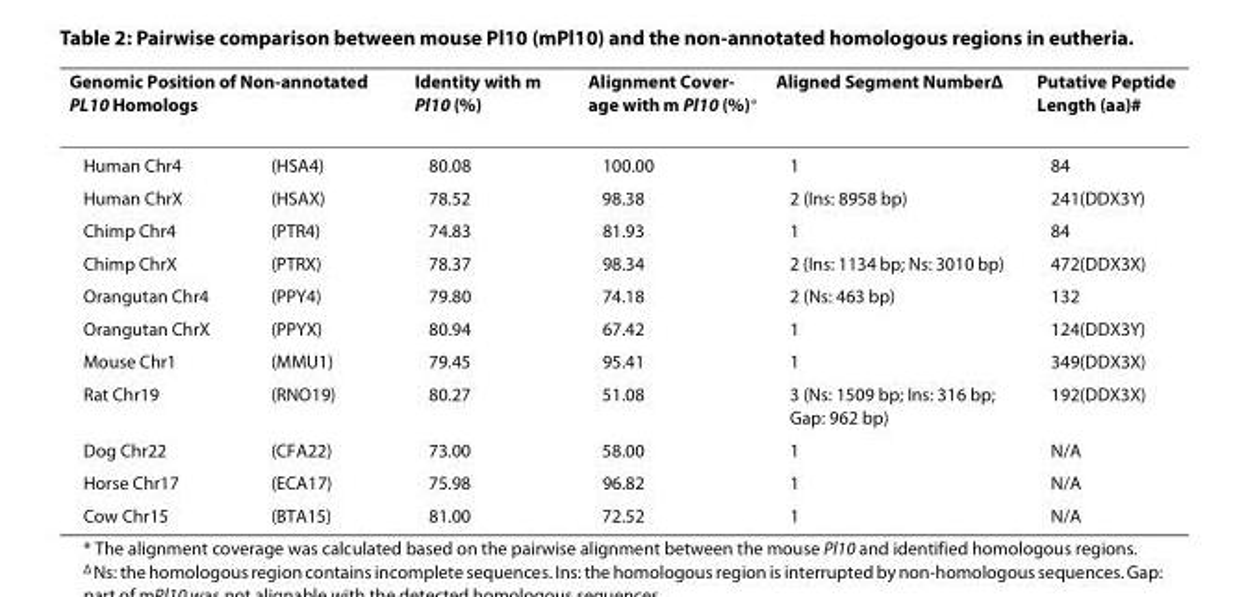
<table><thead><tr><td colspan="2">Genomic Position of Non-annotated PL10 Homologs</td><td rowspan="2">Identity with m Pl10 (%) 80.08</td><td rowspan="2">Alignment Cover- age with m Pl10 (%)* 100.00</td><td rowspan="2">Aligned Segment Number<sup>Δ</sup> 1</td><td rowspan="2">Putative Peptide Length (aa)<sup>#</sup> 84</td></tr><tr><td>Human Chr4</td><td>(HSA4)</td></tr></thead><tbody><tr><td>Human ChrX</td><td>(HSAX)</td><td>78.52</td><td>98.38</td><td>2 (Ins: 8958 bp)</td><td>241(DDX3Y)</td></tr><tr><td>Chimp Chr4</td><td>(PTR4)</td><td>74.83</td><td>81.93</td><td>1</td><td>84</td></tr><tr><td>Chimp ChrX</td><td>(PTRX)</td><td>78.37</td><td>98.34</td><td>2 (Ins: 1134 bp; Ns: 3010 bp)</td><td>472(DDX3X)</td></tr><tr><td>Orangutan Chr4</td><td>(PPY4)</td><td>79.80</td><td>74.18</td><td>2 (Ns: 463 bp)</td><td>132</td></tr><tr><td>Orangutan ChrX</td><td>(PPYX)</td><td>80.94</td><td>67.42</td><td>1</td><td>124(DDX3Y)</td></tr><tr><td>Mouse Chr1</td><td>(MMU1)</td><td>79.45</td><td>95.41</td><td>1</td><td>349(DDX3X)</td></tr><tr><td>Rat Chr19</td><td>(RNO19)</td><td>80.27</td><td>51.08</td><td>3 (Ns: 1509 bp; Ins: 316 bp; Gap: 962 bp)</td><td>192(DDX3X)</td></tr><tr><td>Dog Chr22</td><td>(CFA22)</td><td>73.00</td><td>58.00</td><td>1</td><td>N/A</td></tr><tr><td>Horse Chr17</td><td>(ECA17)</td><td>75.98</td><td>96.82</td><td>1</td><td>N/A</td></tr><tr><td>Cow Chr15</td><td>(BTA15)</td><td>81.00</td><td>72.52</td><td>1</td><td>N/A</td></tr></tbody></table>